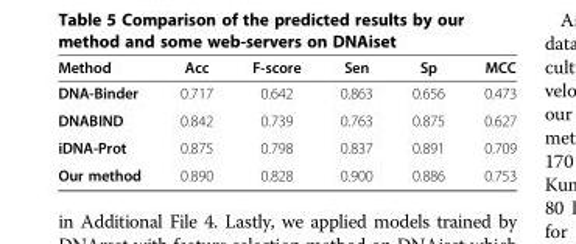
<table><thead><tr><td>Method</td><td>Acc</td><td>F-score</td><td>Sen</td><td>Sp</td><td>MCC</td></tr></thead><tbody><tr><td>DNA-Binder</td><td>0.717</td><td>0.642</td><td>0.863</td><td>0.656</td><td>0.473</td></tr><tr><td>DNABIND</td><td>0.842</td><td>0.739</td><td>0.763</td><td>0.875</td><td>0.627</td></tr><tr><td>iDNA-Prot</td><td>0.875</td><td>0.798</td><td>0.837</td><td>0.891</td><td>0.709</td></tr><tr><td>Our method</td><td>0.890</td><td>0.828</td><td>0.900</td><td>0.886</td><td>0.753</td></tr></tbody></table>